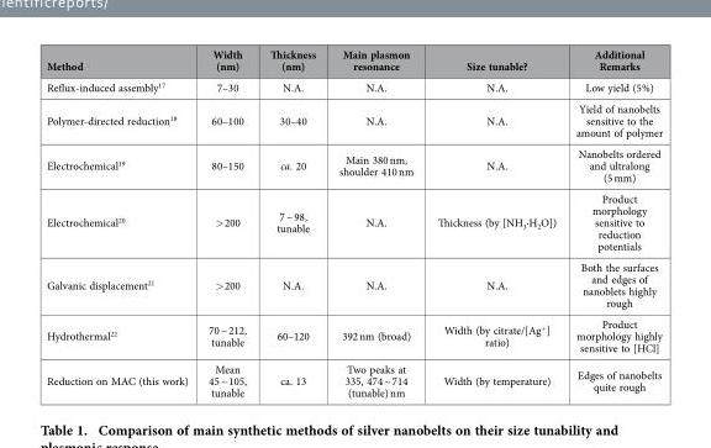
<table><thead><tr><td>Method</td><td>Width (nm)</td><td>Thickness (nm)</td><td>Main plasmon resonance</td><td>Size tunable?</td><td>Additional Remarks</td></tr></thead><tbody><tr><td>Reflux-induced assembly<sup>17</sup></td><td>7–30</td><td>N.A.</td><td>N.A.</td><td>N.A.</td><td>Low yield (5%)</td></tr><tr><td>Polymer-directed reduction<sup>18</sup></td><td>60–100</td><td>30–40</td><td>N.A.</td><td>N.A.</td><td>Yield of nanobelts sensitive to the amount of polymer</td></tr><tr><td>Electrochemical<sup>19</sup></td><td>80–150</td><td>ca. 20</td><td>Main 380 nm, shoulder 410 nm</td><td>N.A.</td><td>Nanobelts ordered and ultralong (5 mm)</td></tr><tr><td>Electrochemical<sup>20</sup></td><td>&gt; 200</td><td>7 ~ 98, tunable</td><td>N.A.</td><td>Thickness (by [NH<sub>3</sub>·H<sub>2</sub>O])</td><td>Product morphology sensitive to reduction potentials</td></tr><tr><td>Galvanic displacement<sup>21</sup></td><td>&gt; 200</td><td>N.A.</td><td>N.A.</td><td>N.A.</td><td>Both the surfaces and edges of nanoblets highly rough</td></tr><tr><td>Hydrothermal<sup>22</sup></td><td>70 ~ 212, tunable</td><td>60–120</td><td>392 nm (broad)</td><td>Width (by citrate/[Ag<sup>+</sup>] ratio)</td><td>Product morphology highly sensitive to [HCl]</td></tr><tr><td>Reduction on MAC (this work)</td><td>Mean 45 ~ 105, tunable</td><td>ca. 13</td><td>Two peaks at 335, 474 ~ 714 (tunable) nm</td><td>Width (by temperature)</td><td>Edges of nanobelts quite rough</td></tr></tbody></table>